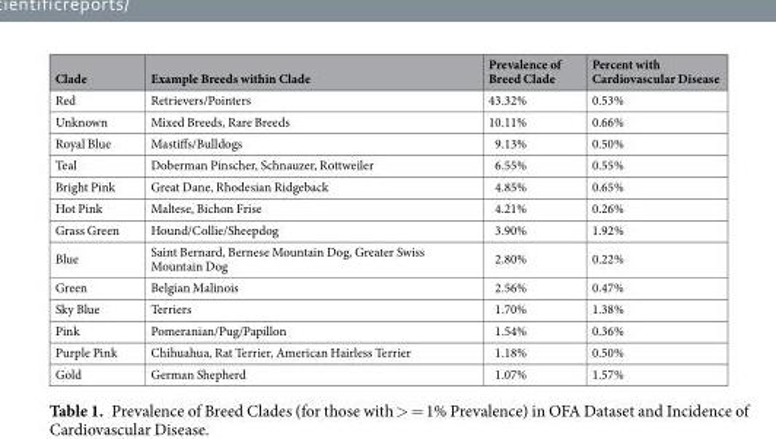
<table><thead><tr><td>Clade</td><td>Example Breeds within Clade</td><td>Prevalence of Breed Clade</td><td>Percent with Cardiovascular Disease</td></tr></thead><tbody><tr><td>Red</td><td>Retrievers/Pointers</td><td>43.32%</td><td>0.53%</td></tr><tr><td>Unknown</td><td>Mixed Breeds, Rare Breeds</td><td>10.11%</td><td>0.66%</td></tr><tr><td>Royal Blue</td><td>Mastiffs/Bulldogs</td><td>9.13%</td><td>0.50%</td></tr><tr><td>Teal</td><td>Doberman Pinscher, Schnauzer, Rottweiler</td><td>6.55%</td><td>0.55%</td></tr><tr><td>Bright Pink</td><td>Great Dane, Rhodesian Ridgeback</td><td>4.85%</td><td>0.65%</td></tr><tr><td>Hot Pink</td><td>Maltese, Bichon Frise</td><td>4.21%</td><td>0.26%</td></tr><tr><td>Grass Green</td><td>Hound/Collie/Sheepdog</td><td>3.90%</td><td>1.92%</td></tr><tr><td>Blue</td><td>Saint Bernard, Bernese Mountain Dog, Greater Swiss Mountain Dog</td><td>2.80%</td><td>0.22%</td></tr><tr><td>Green</td><td>Belgian Malinois</td><td>2.56%</td><td>0.47%</td></tr><tr><td>Sky Blue</td><td>Terriers</td><td>1.70%</td><td>1.38%</td></tr><tr><td>Pink</td><td>Pomeranian/Pug/Papillon</td><td>1.54%</td><td>0.36%</td></tr><tr><td>Purple Pink</td><td>Chihuahua, Rat Terrier, American Hairless Terrier</td><td>1.18%</td><td>0.50%</td></tr><tr><td>Gold</td><td>German Shepherd</td><td>1.07%</td><td>1.57%</td></tr></tbody></table>